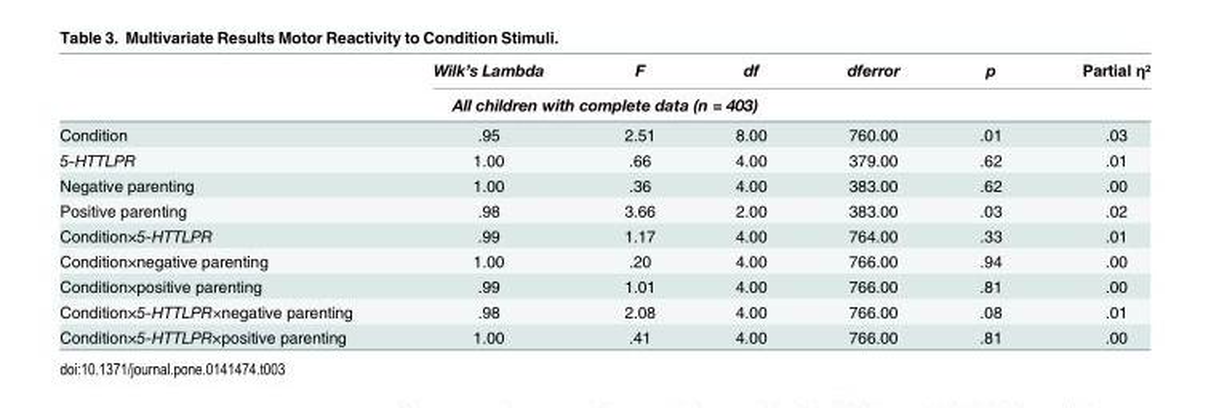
<table><thead><tr><td></td><td>Wilk’s Lambda</td><td>F</td><td>df</td><td>dferror</td><td>p</td><td>Partial η²</td></tr><tr><td colspan="7">All children with complete data (n = 403)</td></tr></thead><tbody><tr><td>Condition</td><td>.95</td><td>2.51</td><td>8.00</td><td>760.00</td><td>.01</td><td>.03</td></tr><tr><td>5-HTTLPR</td><td>1.00</td><td>.66</td><td>4.00</td><td>379.00</td><td>.62</td><td>.01</td></tr><tr><td>Negative parenting</td><td>1.00</td><td>.36</td><td>4.00</td><td>383.00</td><td>.62</td><td>.00</td></tr><tr><td>Positive parenting</td><td>.98</td><td>3.66</td><td>2.00</td><td>383.00</td><td>.03</td><td>.02</td></tr><tr><td>Condition×5-HTTLPR</td><td>.99</td><td>1.17</td><td>4.00</td><td>764.00</td><td>.33</td><td>.01</td></tr><tr><td>Condition×negative parenting</td><td>1.00</td><td>.20</td><td>4.00</td><td>766.00</td><td>.94</td><td>.00</td></tr><tr><td>Condition×positive parenting</td><td>.99</td><td>1.01</td><td>4.00</td><td>766.00</td><td>.81</td><td>.00</td></tr><tr><td>Condition×5-HTTLPR×negative parenting</td><td>.98</td><td>2.08</td><td>4.00</td><td>766.00</td><td>.08</td><td>.01</td></tr><tr><td>Condition×5-HTTLPR×positive parenting</td><td>1.00</td><td>.41</td><td>4.00</td><td>766.00</td><td>.81</td><td>.00</td></tr></tbody></table>